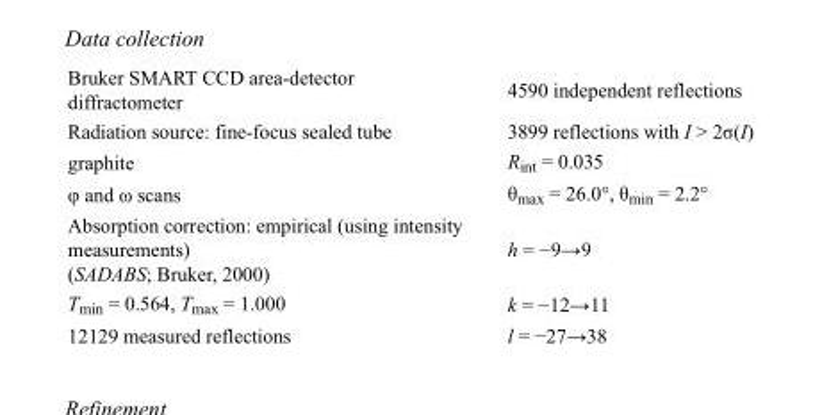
<table><tbody><tr><td>Bruker SMART CCD area-detector diffractometer</td><td>4590 independent reflections</td></tr><tr><td>Radiation source: fine-focus sealed tube</td><td>3899 reflections with I &gt; 2σ(I)</td></tr><tr><td>graphite</td><td>R<sub>int</sub> = 0.035</td></tr><tr><td>φ and ω scans</td><td>θ<sub>max</sub> = 26.0°, θ<sub>min</sub> = 2.2°</td></tr><tr><td>Absorption correction: empirical (using intensity measurements) (SADABS; Bruker, 2000)</td><td>h = −9→9</td></tr><tr><td>T<sub>min</sub> = 0.564, T<sub>max</sub> = 1.000</td><td>k = −12→11</td></tr><tr><td>12129 measured reflections</td><td>l = −27→38</td></tr></tbody></table>